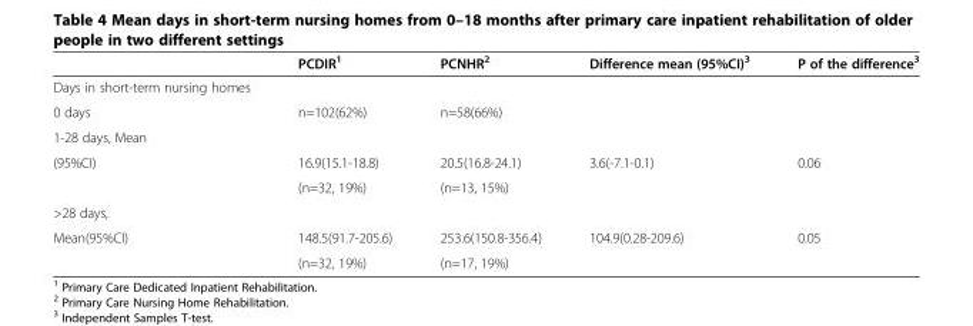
<table><thead><tr><td></td><td>PCDIR<sup>1</sup></td><td>PCNHR<sup>2</sup></td><td>Difference mean (95%CI)<sup>3</sup></td><td>P of the difference<sup>3</sup></td></tr></thead><tbody><tr><td colspan="5">Days in short-term nursing homes</td></tr><tr><td>0 days</td><td>n=102(62%)</td><td>n=58(66%)</td><td></td><td></td></tr><tr><td colspan="5">1-28 days, Mean</td></tr><tr><td rowspan="2">(95%CI)</td><td>16.9(15.1-18.8)</td><td>20.5(16.8-24.1)</td><td>3.6(-7.1-0.1)</td><td>0.06</td></tr><tr><td>(n=32, 19%)</td><td>(n=13, 15%)</td><td></td><td></td></tr><tr><td colspan="5">&gt;28 days,</td></tr><tr><td rowspan="2">Mean(95%CI)</td><td>148.5(91.7-205.6)</td><td>253.6(150.8-356.4)</td><td>104.9(0.28-209.6)</td><td>0.05</td></tr><tr><td>(n=32, 19%)</td><td>(n=17, 19%)</td><td></td><td></td></tr></tbody></table>